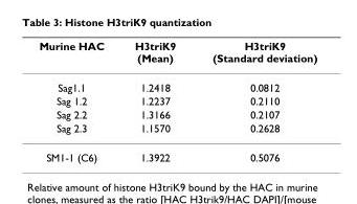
<table><thead><tr><td>Murine HAC</td><td>H3triK9 (Mean)</td><td>H3triK9 (Standard deviation)</td></tr></thead><tbody><tr><td>Sag1.1</td><td>1.2418</td><td>0.0812</td></tr><tr><td>Sag 1.2</td><td>1.2237</td><td>0.2110</td></tr><tr><td>Sag 2.2</td><td>1.3166</td><td>0.2107</td></tr><tr><td>Sag 2.3</td><td>1.1570</td><td>0.2628</td></tr><tr><td>SM1-1 (C6)</td><td>1.3922</td><td>0.5076</td></tr></tbody></table>